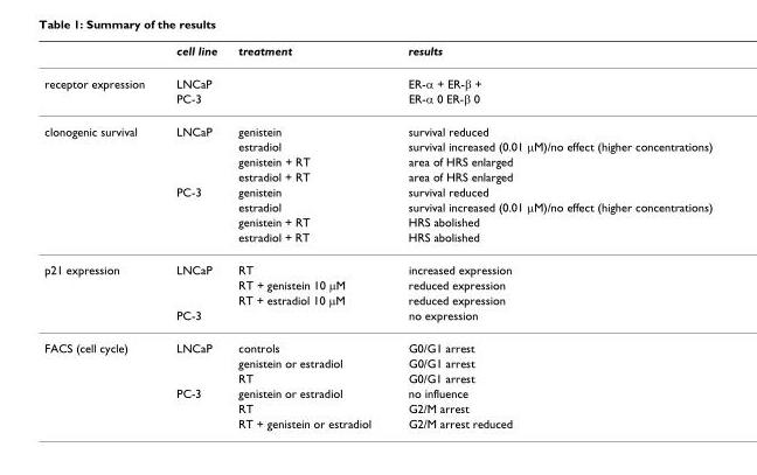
<table><thead><tr><td></td><td>cell line</td><td>treatment</td><td>results</td></tr></thead><tbody><tr><td rowspan="2">receptor expression</td><td>LNCaP</td><td></td><td>ER-α + ER-β +</td></tr><tr><td>PC-3</td><td></td><td>ER-α 0 ER-β 0</td></tr><tr><td rowspan="8">clonogenic survival</td><td>LNCaP</td><td>genistein</td><td>survival reduced</td></tr><tr><td></td><td>estradiol</td><td>survival increased (0.01 μM)/no effect (higher concentrations)</td></tr><tr><td></td><td>genistein + RT</td><td>area of HRS enlarged</td></tr><tr><td></td><td>estradiol + RT</td><td>area of HRS enlarged</td></tr><tr><td>PC-3</td><td>genistein</td><td>survival reduced</td></tr><tr><td></td><td>estradiol</td><td>survival increased (0.01 μM)/no effect (higher concentrations)</td></tr><tr><td></td><td>genistein + RT</td><td>HRS abolished</td></tr><tr><td></td><td>estradiol + RT</td><td>HRS abolished</td></tr><tr><td rowspan="4">p21 expression</td><td>LNCaP</td><td>RT</td><td>increased expression</td></tr><tr><td></td><td>RT + genistein 10 μM</td><td>reduced expression</td></tr><tr><td></td><td>RT + estradiol 10 μM</td><td>reduced expression</td></tr><tr><td>PC-3</td><td></td><td>no expression</td></tr><tr><td rowspan="6">FACS (cell cycle)</td><td>LNCaP</td><td>controls</td><td>G0/G1 arrest</td></tr><tr><td></td><td>genistein or estradiol</td><td>G0/G1 arrest</td></tr><tr><td></td><td>RT</td><td>G0/G1 arrest</td></tr><tr><td>PC-3</td><td>genistein or estradiol</td><td>no influence</td></tr><tr><td></td><td>RT</td><td>G2/M arrest</td></tr><tr><td></td><td>RT + genistein or estradiol</td><td>G2/M arrest reduced</td></tr></tbody></table>